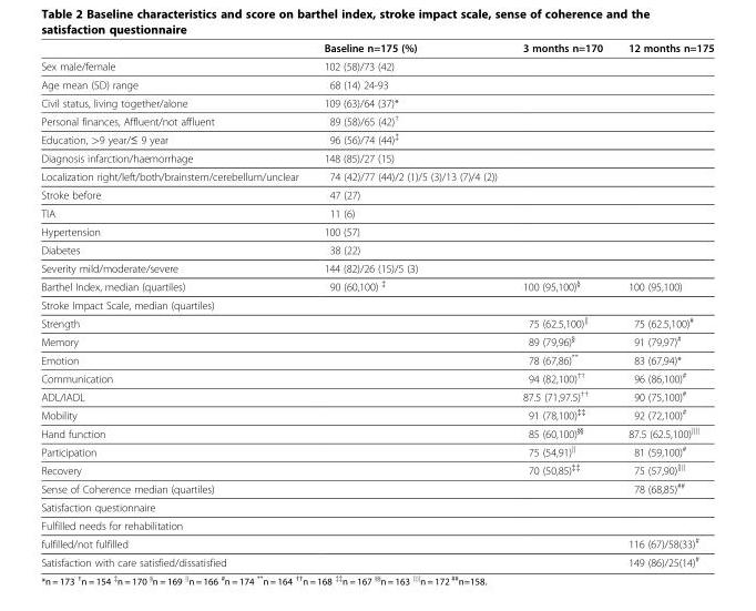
<table><thead><tr><td></td><td>Baseline n=175 (%)</td><td>3 months n=170</td><td>12 months n=175</td></tr></thead><tbody><tr><td>Sex male/female</td><td>102 (58)/73 (42)</td><td></td><td></td></tr><tr><td>Age mean (SD) range</td><td>68 (14) 24-93</td><td></td><td></td></tr><tr><td>Civil status, living together/alone</td><td>109 (63)/64 (37)*</td><td></td><td></td></tr><tr><td>Personal finances, Affluent/not affluent</td><td>89 (58)/65 (42)<sup>†</sup></td><td></td><td></td></tr><tr><td>Education, &gt;9 year/≤ 9 year</td><td>96 (56)/74 (44)<sup>‡</sup></td><td></td><td></td></tr><tr><td>Diagnosis infarction/haemorrhage</td><td>148 (85)/27 (15)</td><td></td><td></td></tr><tr><td>Localization right/left/both/brainstem/cerebellum/unclear</td><td>74 (42)/77 (44)/2 (1)/5 (3)/13 (7)/4 (2))</td><td></td><td></td></tr><tr><td>Stroke before</td><td>47 (27)</td><td></td><td></td></tr><tr><td>TIA</td><td>11 (6)</td><td></td><td></td></tr><tr><td>Hypertension</td><td>100 (57)</td><td></td><td></td></tr><tr><td>Diabetes</td><td>38 (22)</td><td></td><td></td></tr><tr><td>Severity mild/moderate/severe</td><td>144 (82)/26 (15)/5 (3)</td><td></td><td></td></tr><tr><td>Barthel Index, median (quartiles)</td><td>90 (60,100) <sup>‡</sup></td><td>100 (95,100)<sup>§</sup></td><td>100 (95,100)</td></tr><tr><td colspan="4">Stroke Impact Scale, median (quartiles)</td></tr><tr><td>Strength</td><td></td><td>75 (62.5,100)<sup>∥</sup></td><td>75 (62.5,100)<sup>#</sup></td></tr><tr><td>Memory</td><td></td><td>89 (79,96)<sup>§</sup></td><td>91 (79,97)<sup>#</sup></td></tr><tr><td>Emotion</td><td></td><td>78 (67,86)**</td><td>83 (67,94)*</td></tr><tr><td>Communication</td><td></td><td>94 (82,100)<sup>††</sup></td><td>96 (86,100)<sup>#</sup></td></tr><tr><td>ADL/IADL</td><td></td><td>87.5 (71,97.5)<sup>††</sup></td><td>90 (75,100)<sup>#</sup></td></tr><tr><td>Mobility</td><td></td><td>91 (78,100)<sup>‡‡</sup></td><td>92 (72,100)<sup>#</sup></td></tr><tr><td>Hand function</td><td></td><td>85 (60,100)<sup>§§</sup></td><td>87.5 (62.5,100)<sup>∥∥</sup></td></tr><tr><td>Participation</td><td></td><td>75 (54,91)<sup>∥</sup></td><td>81 (59,100)<sup>#</sup></td></tr><tr><td>Recovery</td><td></td><td>70 (50,85)<sup>‡‡</sup></td><td>75 (57,90)<sup>∥∥</sup></td></tr><tr><td>Sense of Coherence median (quartiles)</td><td></td><td></td><td>78 (68,85)<sup>##</sup></td></tr><tr><td colspan="4">Satisfaction questionnaire</td></tr><tr><td colspan="4">Fulfilled needs for rehabilitation</td></tr><tr><td>fulfilled/not fulfilled</td><td></td><td></td><td>116 (67)/58(33)<sup>#</sup></td></tr><tr><td>Satisfaction with care satisfied/dissatisfied</td><td></td><td></td><td>149 (86)/25(14)<sup>#</sup></td></tr></tbody></table>